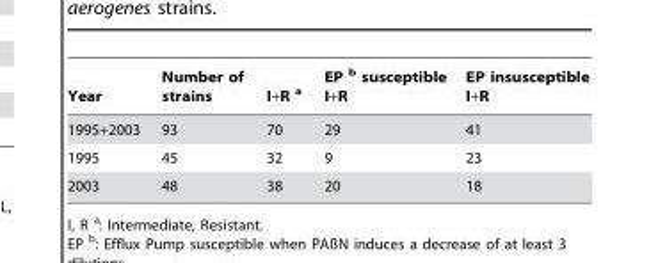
<table><thead><tr><td>Year</td><td>Number of strains</td><td>I+R <sup>a</sup></td><td>EP <sup>b</sup> susceptible I+R</td><td>EP insusceptible I+R</td></tr></thead><tbody><tr><td>1995+2003</td><td>93</td><td>70</td><td>29</td><td>41</td></tr><tr><td>1995</td><td>45</td><td>32</td><td>9</td><td>23</td></tr><tr><td>2003</td><td>48</td><td>38</td><td>20</td><td>18</td></tr></tbody></table>